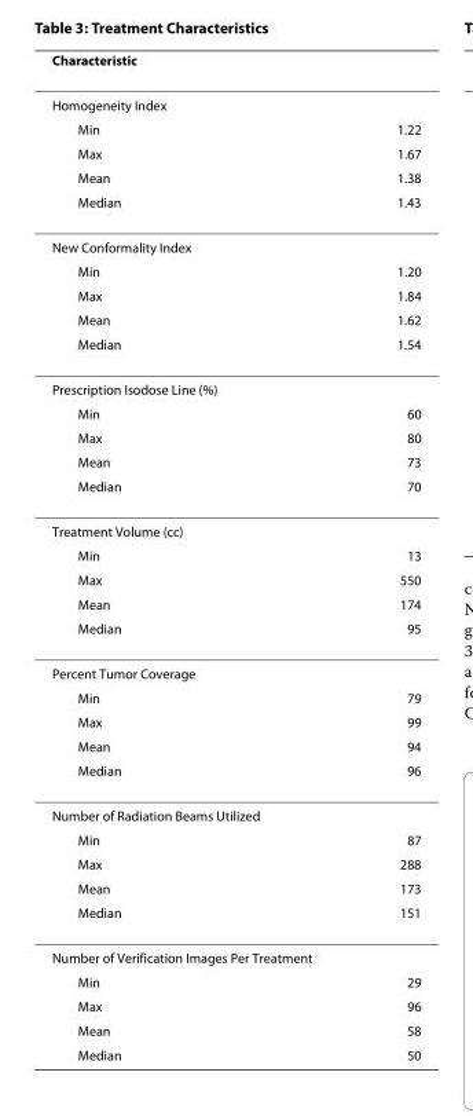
<table><thead><tr><td rowspan="2" colspan="2">Characteristic Homogeneity Index</td></tr><tr></tr><tr><td>Min</td><td>1.22</td></tr></thead><tbody><tr><td>Max</td><td>1.67</td></tr><tr><td>Mean</td><td>1.38</td></tr><tr><td>Median</td><td>1.43</td></tr><tr><td colspan="2">New Conformality Index</td></tr><tr><td>Min</td><td>1.20</td></tr><tr><td>Max</td><td>1.84</td></tr><tr><td>Mean</td><td>1.62</td></tr><tr><td>Median</td><td>1.54</td></tr><tr><td colspan="2">Prescription Isodose Line (%)</td></tr><tr><td>Min</td><td>60</td></tr><tr><td>Max</td><td>80</td></tr><tr><td>Mean</td><td>73</td></tr><tr><td>Median</td><td>70</td></tr><tr><td colspan="2">Treatment Volume (cc)</td></tr><tr><td>Min</td><td>13</td></tr><tr><td>Max</td><td>550</td></tr><tr><td>Mean</td><td>174</td></tr><tr><td>Median</td><td>95</td></tr><tr><td colspan="2">Percent Tumor Coverage</td></tr><tr><td>Min</td><td>79</td></tr><tr><td>Max</td><td>99</td></tr><tr><td>Mean</td><td>94</td></tr><tr><td>Median</td><td>96</td></tr><tr><td colspan="2">Number of Radiation Beams Utilized</td></tr><tr><td>Min</td><td>87</td></tr><tr><td>Max</td><td>288</td></tr><tr><td>Mean</td><td>173</td></tr><tr><td>Median</td><td>151</td></tr><tr><td colspan="2">Number of Verification Images Per Treatment</td></tr><tr><td>Min</td><td>29</td></tr><tr><td>Max</td><td>96</td></tr><tr><td>Mean</td><td>58</td></tr><tr><td>Median</td><td>50</td></tr></tbody></table>